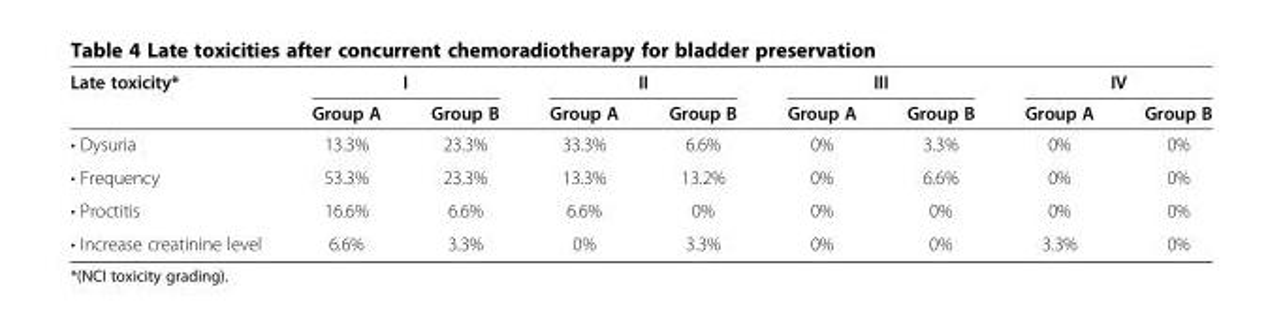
<table><thead><tr><td rowspan="2">Late toxicity*</td><td colspan="2">I</td><td colspan="2">II</td><td colspan="2">III</td><td colspan="2">IV</td></tr><tr><td>Group A</td><td>Group B</td><td>Group A</td><td>Group B</td><td>Group A</td><td>Group B</td><td>Group A</td><td>Group B</td></tr></thead><tbody><tr><td>• Dysuria</td><td>13.3%</td><td>23.3%</td><td>33.3%</td><td>6.6%</td><td>0%</td><td>3.3%</td><td>0%</td><td>0%</td></tr><tr><td>• Frequency</td><td>53.3%</td><td>23.3%</td><td>13.3%</td><td>13.2%</td><td>0%</td><td>6.6%</td><td>0%</td><td>0%</td></tr><tr><td>• Proctitis</td><td>16.6%</td><td>6.6%</td><td>6.6%</td><td>0%</td><td>0%</td><td>0%</td><td>0%</td><td>0%</td></tr><tr><td>• Increase creatinine level</td><td>6.6%</td><td>3.3%</td><td>0%</td><td>3.3%</td><td>0%</td><td>0%</td><td>3.3%</td><td>0%</td></tr></tbody></table>